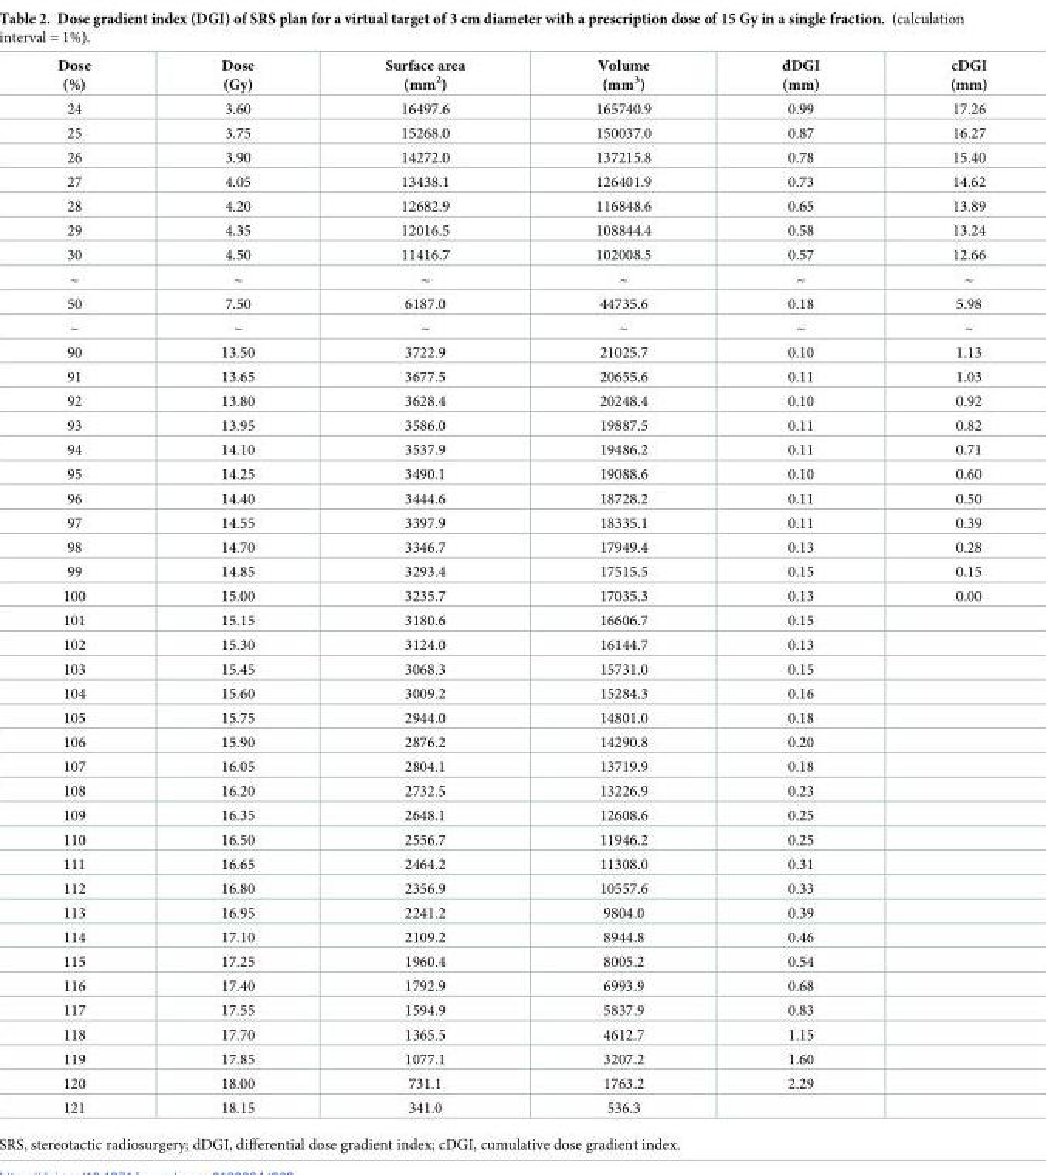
<table><thead><tr><td>Dose (%)</td><td>Dose (Gy)</td><td>Surface area (mm<sup>2</sup>)</td><td>Volume (mm<sup>3</sup>)</td><td>dDGI (mm)</td><td>cDGI (mm)</td></tr></thead><tbody><tr><td>24</td><td>3.60</td><td>16497.6</td><td>165740.9</td><td>0.99</td><td>17.26</td></tr><tr><td>25</td><td>3.75</td><td>15268.0</td><td>150037.0</td><td>0.87</td><td>16.27</td></tr><tr><td>26</td><td>3.90</td><td>14272.0</td><td>137215.8</td><td>0.78</td><td>15.40</td></tr><tr><td>27</td><td>4.05</td><td>13438.1</td><td>126401.9</td><td>0.73</td><td>14.62</td></tr><tr><td>28</td><td>4.20</td><td>12682.9</td><td>116848.6</td><td>0.65</td><td>13.89</td></tr><tr><td>29</td><td>4.35</td><td>12016.5</td><td>108844.4</td><td>0.58</td><td>13.24</td></tr><tr><td>30</td><td>4.50</td><td>11416.7</td><td>102008.5</td><td>0.57</td><td>12.66</td></tr><tr><td>~</td><td>~</td><td>~</td><td>~</td><td>~</td><td>~</td></tr><tr><td>50</td><td>7.50</td><td>6187.0</td><td>44735.6</td><td>0.18</td><td>5.98</td></tr><tr><td>~</td><td>~</td><td>~</td><td>~</td><td>~</td><td>~</td></tr><tr><td>90</td><td>13.50</td><td>3722.9</td><td>21025.7</td><td>0.10</td><td>1.13</td></tr><tr><td>91</td><td>13.65</td><td>3677.5</td><td>20655.6</td><td>0.11</td><td>1.03</td></tr><tr><td>92</td><td>13.80</td><td>3628.4</td><td>20248.4</td><td>0.10</td><td>0.92</td></tr><tr><td>93</td><td>13.95</td><td>3586.0</td><td>19887.5</td><td>0.11</td><td>0.82</td></tr><tr><td>94</td><td>14.10</td><td>3537.9</td><td>19486.2</td><td>0.11</td><td>0.71</td></tr><tr><td>95</td><td>14.25</td><td>3490.1</td><td>19088.6</td><td>0.10</td><td>0.60</td></tr><tr><td>96</td><td>14.40</td><td>3444.6</td><td>18728.2</td><td>0.11</td><td>0.50</td></tr><tr><td>97</td><td>14.55</td><td>3397.9</td><td>18335.1</td><td>0.11</td><td>0.39</td></tr><tr><td>98</td><td>14.70</td><td>3346.7</td><td>17949.4</td><td>0.13</td><td>0.28</td></tr><tr><td>99</td><td>14.85</td><td>3293.4</td><td>17515.5</td><td>0.15</td><td>0.15</td></tr><tr><td>100</td><td>15.00</td><td>3235.7</td><td>17035.3</td><td>0.13</td><td>0.00</td></tr><tr><td>101</td><td>15.15</td><td>3180.6</td><td>16606.7</td><td>0.15</td><td></td></tr><tr><td>102</td><td>15.30</td><td>3124.0</td><td>16144.7</td><td>0.13</td><td></td></tr><tr><td>103</td><td>15.45</td><td>3068.3</td><td>15731.0</td><td>0.15</td><td></td></tr><tr><td>104</td><td>15.60</td><td>3009.2</td><td>15284.3</td><td>0.16</td><td></td></tr><tr><td>105</td><td>15.75</td><td>2944.0</td><td>14801.0</td><td>0.18</td><td></td></tr><tr><td>106</td><td>15.90</td><td>2876.2</td><td>14290.8</td><td>0.20</td><td></td></tr><tr><td>107</td><td>16.05</td><td>2804.1</td><td>13719.9</td><td>0.18</td><td></td></tr><tr><td>108</td><td>16.20</td><td>2732.5</td><td>13226.9</td><td>0.23</td><td></td></tr><tr><td>109</td><td>16.35</td><td>2648.1</td><td>12608.6</td><td>0.25</td><td></td></tr><tr><td>110</td><td>16.50</td><td>2556.7</td><td>11946.2</td><td>0.25</td><td></td></tr><tr><td>111</td><td>16.65</td><td>2464.2</td><td>11308.0</td><td>0.31</td><td></td></tr><tr><td>112</td><td>16.80</td><td>2356.9</td><td>10557.6</td><td>0.33</td><td></td></tr><tr><td>113</td><td>16.95</td><td>2241.2</td><td>9804.0</td><td>0.39</td><td></td></tr><tr><td>114</td><td>17.10</td><td>2109.2</td><td>8944.8</td><td>0.46</td><td></td></tr><tr><td>115</td><td>17.25</td><td>1960.4</td><td>8005.2</td><td>0.54</td><td></td></tr><tr><td>116</td><td>17.40</td><td>1792.9</td><td>6993.9</td><td>0.68</td><td></td></tr><tr><td>117</td><td>17.55</td><td>1594.9</td><td>5837.9</td><td>0.83</td><td></td></tr><tr><td>118</td><td>17.70</td><td>1365.5</td><td>4612.7</td><td>1.15</td><td></td></tr><tr><td>119</td><td>17.85</td><td>1077.1</td><td>3207.2</td><td>1.60</td><td></td></tr><tr><td>120</td><td>18.00</td><td>731.1</td><td>1763.2</td><td>2.29</td><td></td></tr><tr><td>121</td><td>18.15</td><td>341.0</td><td>536.3</td><td></td><td></td></tr></tbody></table>